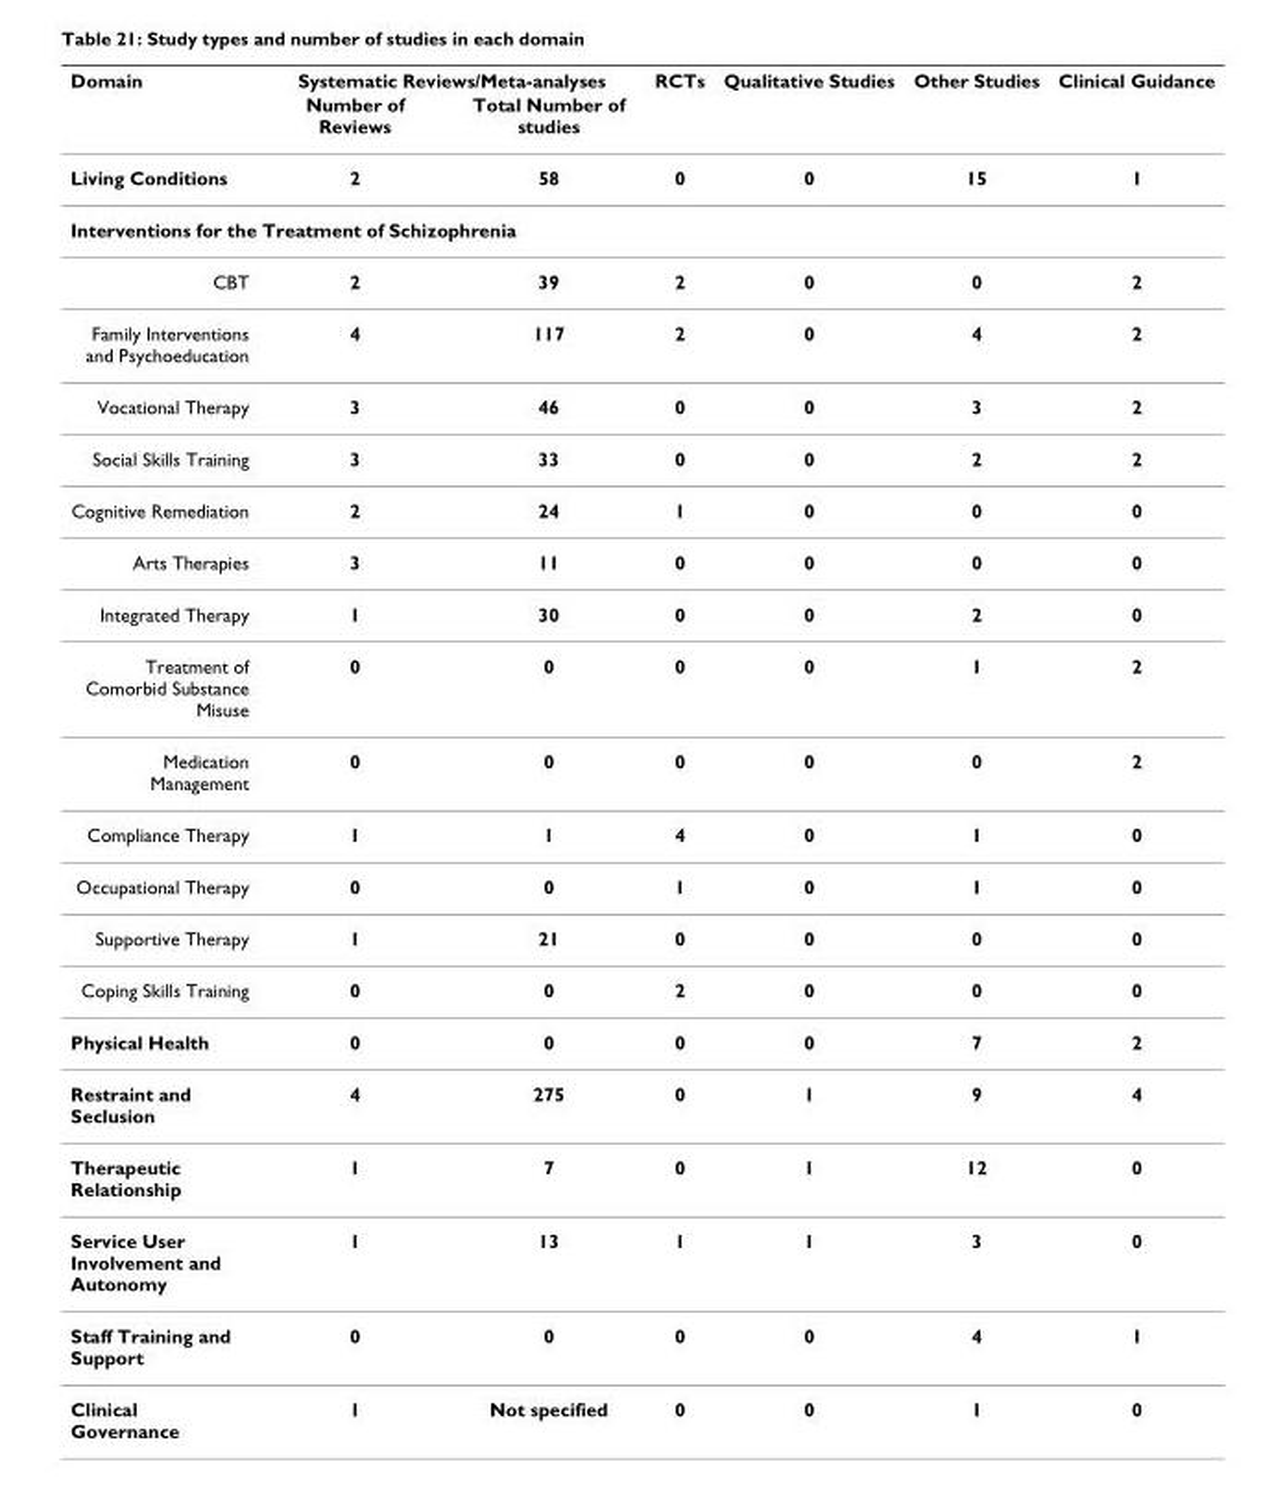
<table><thead><tr><td rowspan="2">Domain</td><td colspan="2">Systematic Reviews/Meta-analyses</td><td rowspan="2">RCTs</td><td rowspan="2">Qualitative Studies</td><td rowspan="2">Other Studies</td><td rowspan="2">Clinical Guidance</td></tr><tr><td>Number of Reviews</td><td>Total Number of studies</td></tr></thead><tbody><tr><td>Living Conditions</td><td>2</td><td>58</td><td>0</td><td>0</td><td>15</td><td>1</td></tr><tr><td colspan="7">Interventions for the Treatment of Schizophrenia</td></tr><tr><td>CBT</td><td>2</td><td>39</td><td>2</td><td>0</td><td>0</td><td>2</td></tr><tr><td>Family Interventions and Psychoeducation</td><td>4</td><td>117</td><td>2</td><td>0</td><td>4</td><td>2</td></tr><tr><td>Vocational Therapy</td><td>3</td><td>46</td><td>0</td><td>0</td><td>3</td><td>2</td></tr><tr><td>Social Skills Training</td><td>3</td><td>33</td><td>0</td><td>0</td><td>2</td><td>2</td></tr><tr><td>Cognitive Remediation</td><td>2</td><td>24</td><td>1</td><td>0</td><td>0</td><td>0</td></tr><tr><td>Arts Therapies</td><td>3</td><td>11</td><td>0</td><td>0</td><td>0</td><td>0</td></tr><tr><td>Integrated Therapy</td><td>1</td><td>30</td><td>0</td><td>0</td><td>2</td><td>0</td></tr><tr><td>Treatment of Comorbid Substance Misuse</td><td>0</td><td>0</td><td>0</td><td>0</td><td>1</td><td>2</td></tr><tr><td>Medication Management</td><td>0</td><td>0</td><td>0</td><td>0</td><td>0</td><td>2</td></tr><tr><td>Compliance Therapy</td><td>1</td><td>1</td><td>4</td><td>0</td><td>1</td><td>0</td></tr><tr><td>Occupational Therapy</td><td>0</td><td>0</td><td>1</td><td>0</td><td>1</td><td>0</td></tr><tr><td>Supportive Therapy</td><td>1</td><td>21</td><td>0</td><td>0</td><td>0</td><td>0</td></tr><tr><td>Coping Skills Training</td><td>0</td><td>0</td><td>2</td><td>0</td><td>0</td><td>0</td></tr><tr><td>Physical Health</td><td>0</td><td>0</td><td>0</td><td>0</td><td>7</td><td>2</td></tr><tr><td>Restraint and Seclusion</td><td>4</td><td>275</td><td>0</td><td>1</td><td>9</td><td>4</td></tr><tr><td>Therapeutic Relationship</td><td>1</td><td>7</td><td>0</td><td>1</td><td>12</td><td>0</td></tr><tr><td>Service User Involvement and Autonomy</td><td>1</td><td>13</td><td>1</td><td>1</td><td>3</td><td>0</td></tr><tr><td>Staff Training and Support</td><td>0</td><td>0</td><td>0</td><td>0</td><td>4</td><td>1</td></tr><tr><td>Clinical Governance</td><td>1</td><td>Not specified</td><td>0</td><td>0</td><td>1</td><td>0</td></tr></tbody></table>